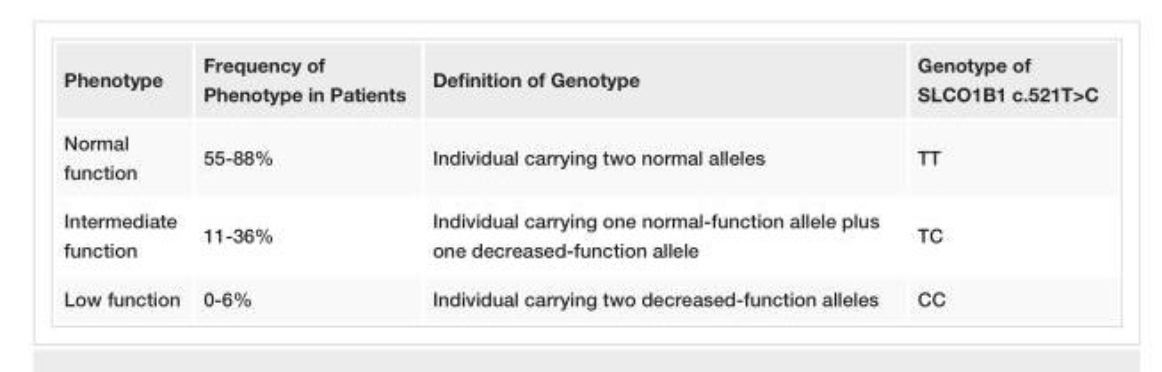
<table><tbody><tr><td>Phenotype</td><td>Frequency of Phenotype in Patients</td><td>Definition of Genotype</td><td>Genotype of SLCO1B1 c.521T&gt;C</td></tr><tr><td>Normal function</td><td>55-88%</td><td>Individual carrying two normal alleles</td><td>TT</td></tr><tr><td>Intermediate function</td><td>11-36%</td><td>Individual carrying one normal-function allele plus one decreased-function allele</td><td>TC</td></tr><tr><td>Low function</td><td>0-6%</td><td>Individual carrying two decreased-function alleles</td><td>CC</td></tr></tbody></table>